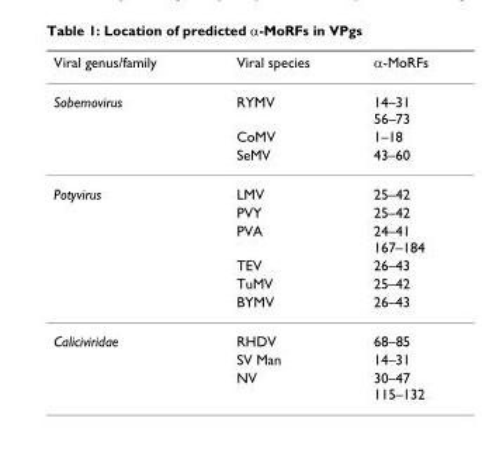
<table><thead><tr><td>Viral genus/family</td><td>Viral species</td><td>α-MoRFs</td></tr></thead><tbody><tr><td rowspan="3">Sobemovirus</td><td>RYMV</td><td>14–31 56–73</td></tr><tr><td>CoMV</td><td>1–18</td></tr><tr><td>SeMV</td><td>43–60</td></tr><tr><td rowspan="6">Potyvirus</td><td>LMV</td><td>25–42</td></tr><tr><td>PVY</td><td>25–42</td></tr><tr><td>PVA</td><td>24–41 167–184</td></tr><tr><td>TEV</td><td>26–43</td></tr><tr><td>TuMV</td><td>25–42</td></tr><tr><td>BYMV</td><td>26–43</td></tr><tr><td rowspan="3">Caliciviridae</td><td>RHDV</td><td>68–85</td></tr><tr><td>SV Man</td><td>14–31</td></tr><tr><td>NV</td><td>30–47 115–132</td></tr></tbody></table>